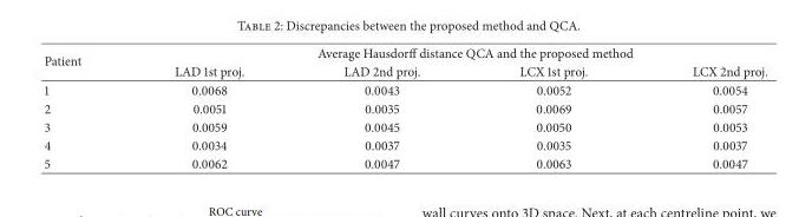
<table><thead><tr><td rowspan="2">Patient</td><td colspan="4">Average Hausdorff distance QCA and the proposed method</td></tr><tr><td>LAD 1st proj.</td><td>LAD 2nd proj.</td><td>LCX 1st proj.</td><td>LCX 2nd proj.</td></tr></thead><tbody><tr><td>1</td><td>0.0068</td><td>0.0043</td><td>0.0052</td><td>0.0054</td></tr><tr><td>2</td><td>0.0051</td><td>0.0035</td><td>0.0069</td><td>0.0057</td></tr><tr><td>3</td><td>0.0059</td><td>0.0045</td><td>0.0050</td><td>0.0053</td></tr><tr><td>4</td><td>0.0034</td><td>0.0037</td><td>0.0035</td><td>0.0037</td></tr><tr><td>5</td><td>0.0062</td><td>0.0047</td><td>0.0063</td><td>0.0047</td></tr></tbody></table>